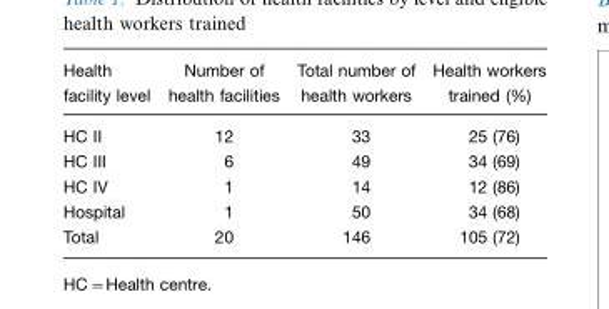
<table><thead><tr><td>Health facility level</td><td>Number of health facilities</td><td>Total number of health workers</td><td>Health workers trained (%)</td></tr></thead><tbody><tr><td>HC II</td><td>12</td><td>33</td><td>25 (76)</td></tr><tr><td>HC III</td><td>6</td><td>49</td><td>34 (69)</td></tr><tr><td>HC IV</td><td>1</td><td>14</td><td>12 (86)</td></tr><tr><td>Hospital</td><td>1</td><td>50</td><td>34 (68)</td></tr><tr><td>Total</td><td>20</td><td>146</td><td>105 (72)</td></tr></tbody></table>